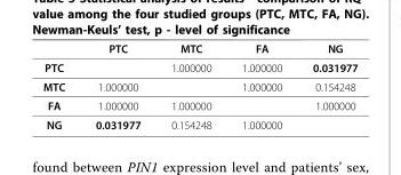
<table><thead><tr><td></td><td>PTC</td><td>MTC</td><td>FA</td><td>NG</td></tr></thead><tbody><tr><td>PTC</td><td></td><td>1.000000</td><td>1.000000</td><td>0.031977</td></tr><tr><td>MTC</td><td>1.000000</td><td></td><td>1.000000</td><td>0.154248</td></tr><tr><td>FA</td><td>1.000000</td><td>1.000000</td><td></td><td>1.000000</td></tr><tr><td>NG</td><td>0.031977</td><td>0.154248</td><td>1.000000</td><td></td></tr></tbody></table>